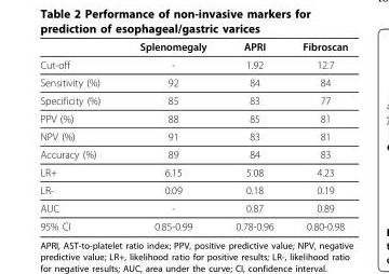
<table><thead><tr><td></td><td>Splenomegaly</td><td>APRI</td><td>Fibroscan</td></tr></thead><tbody><tr><td>Cut-off</td><td>-</td><td>1.92</td><td>12.7</td></tr><tr><td>Sensitivity (%)</td><td>92</td><td>84</td><td>84</td></tr><tr><td>Specificity (%)</td><td>85</td><td>83</td><td>77</td></tr><tr><td>PPV (%)</td><td>88</td><td>85</td><td>81</td></tr><tr><td>NPV (%)</td><td>91</td><td>83</td><td>81</td></tr><tr><td>Accuracy (%)</td><td>89</td><td>84</td><td>83</td></tr><tr><td>LR+</td><td>6.15</td><td>5.08</td><td>4.23</td></tr><tr><td>LR-</td><td>0.09</td><td>0.18</td><td>0.19</td></tr><tr><td>AUC</td><td>-</td><td>0.87</td><td>0.89</td></tr><tr><td>95% CI</td><td>0.85-0.99</td><td>0.78-0.96</td><td>0.80-0.98</td></tr></tbody></table>